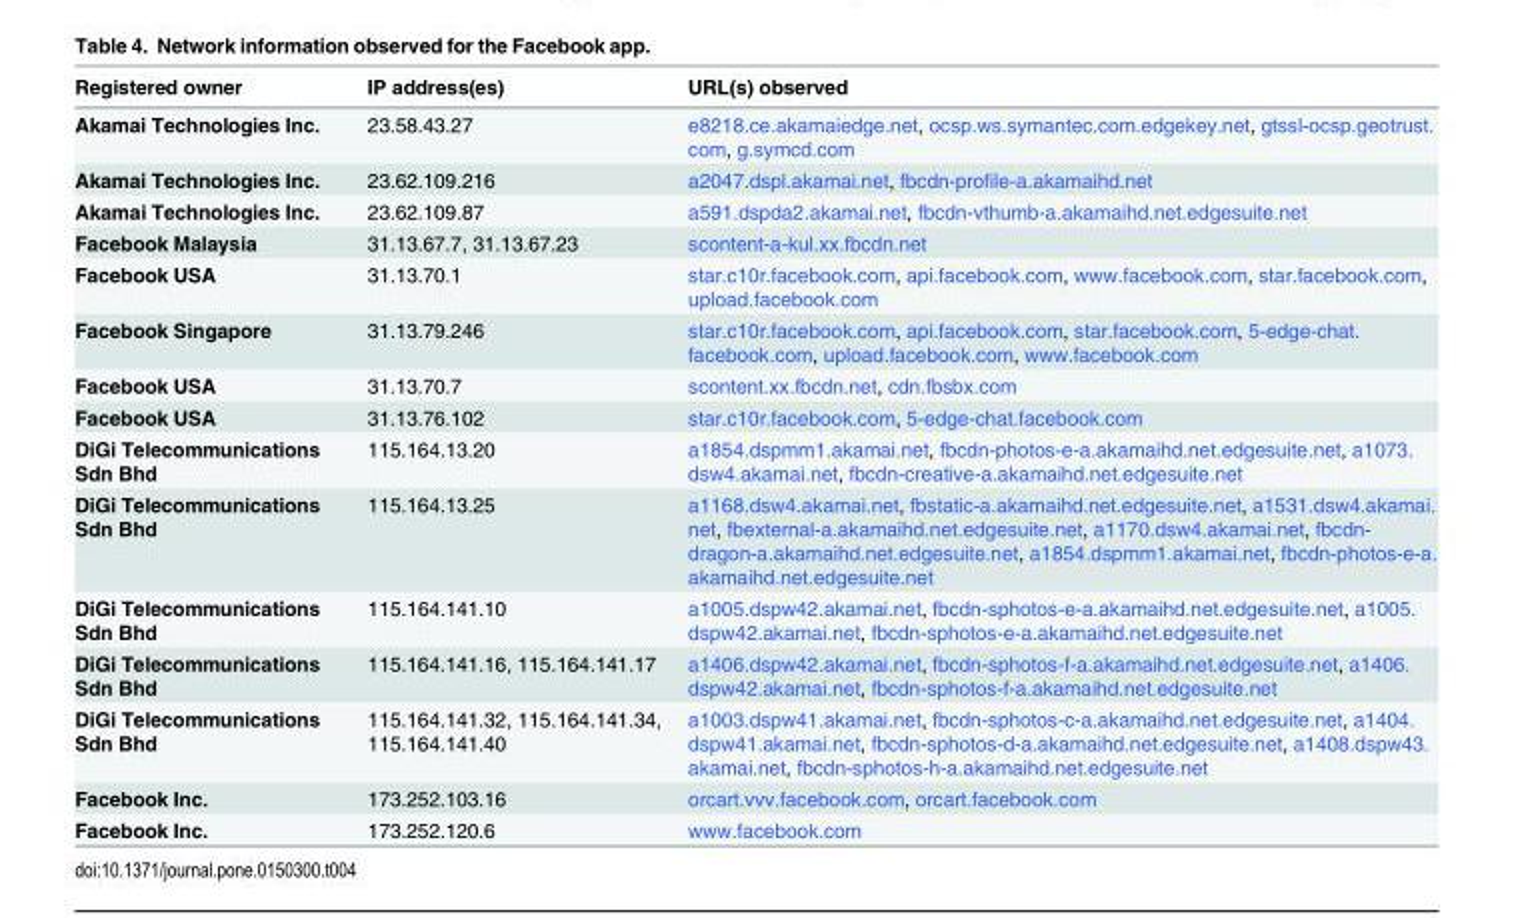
<table><thead><tr><td>Registered owner</td><td>IP address(es)</td><td>URL(s) observed</td></tr></thead><tbody><tr><td>Akamai Technologies Inc.</td><td>23.58.43.27</td><td>e8218.ce.akamaiedge.net, ocsp.ws.symantec.com.edgekey.net, gtssl-ocsp.geotrust. com, g.symcd.com</td></tr><tr><td>Akamai Technologies Inc.</td><td>23.62.109.216</td><td>a2047.dspl.akamai.net, fbcdn-profile-a.akamaihd.net</td></tr><tr><td>Akamai Technologies Inc.</td><td>23.62.109.87</td><td>a591.dspda2.akamai.net, fbcdn-vthumb-a.akamaihd.net.edgesuite.net</td></tr><tr><td>Facebook Malaysia</td><td>31.13.67.7, 31.13.67.23</td><td>scontent-a-kul.xx.fbcdn.net</td></tr><tr><td>Facebook USA</td><td>31.13.70.1</td><td>star.c10r.facebook.com, api.facebook.com, www.facebook.com, star.facebook.com, upload.facebook.com</td></tr><tr><td>Facebook Singapore</td><td>31.13.79.246</td><td>star.c10r.facebook.com, api.facebook.com, star.facebook.com, 5-edge-chat. facebook.com, upload.facebook.com, www.facebook.com</td></tr><tr><td>Facebook USA</td><td>31.13.70.7</td><td>scontent.xx.fbcdn.net, cdn.fbsbx.com</td></tr><tr><td>Facebook USA</td><td>31.13.76.102</td><td>star.c10r.facebook.com, 5-edge-chat.facebook.com</td></tr><tr><td>DiGi Telecommunications Sdn Bhd</td><td>115.164.13.20</td><td>a1854.dspmm1.akamai.net, fbcdn-photos-e-a.akamaihd.net.edgesuite.net, a1073. dsw4.akamai.net, fbcdn-creative-a.akamaihd.net.edgesuite.net</td></tr><tr><td>DiGi Telecommunications Sdn Bhd</td><td>115.164.13.25</td><td>a1168.dsw4.akamai.net, fbstatic-a.akamaihd.net.edgesuite.net, a1531.dsw4.akamai. net, fbexternal-a.akamaihd.net.edgesuite.net, a1170.dsw4.akamai.net, fbcdn- dragon-a.akamaihd.net.edgesuite.net, a1854.dspmm1.akamai.net, fbcdn-photos-e-a. akamaihd.net.edgesuite.net</td></tr><tr><td>DiGi Telecommunications Sdn Bhd</td><td>115.164.141.10</td><td>a1005.dspw42.akamai.net, fbcdn-sphotos-e-a.akamaihd.net.edgesuite.net, a1005. dspw42.akamai.net, fbcdn-sphotos-e-a.akamaihd.net.edgesuite.net</td></tr><tr><td>DiGi Telecommunications Sdn Bhd</td><td>115.164.141.16, 115.164.141.17</td><td>a1406.dspw42.akamai.net, fbcdn-sphotos-f-a.akamaihd.net.edgesuite.net, a1406. dspw42.akamai.net, fbcdn-sphotos-f-a.akamaihd.net.edgesuite.net</td></tr><tr><td>DiGi Telecommunications Sdn Bhd</td><td>115.164.141.32, 115.164.141.34, 115.164.141.40</td><td>a1003.dspw41.akamai.net, fbcdn-sphotos-c-a.akamaihd.net.edgesuite.net, a1404. dspw41.akamai.net, fbcdn-sphotos-d-a.akamaihd.net.edgesuite.net, a1408.dspw43. akamai.net, fbcdn-sphotos-h-a.akamaihd.net.edgesuite.net</td></tr><tr><td>Facebook Inc.</td><td>173.252.103.16</td><td>orcart.vvv.facebook.com, orcart.facebook.com</td></tr><tr><td>Facebook Inc.</td><td>173.252.120.6</td><td>www.facebook.com</td></tr></tbody></table>